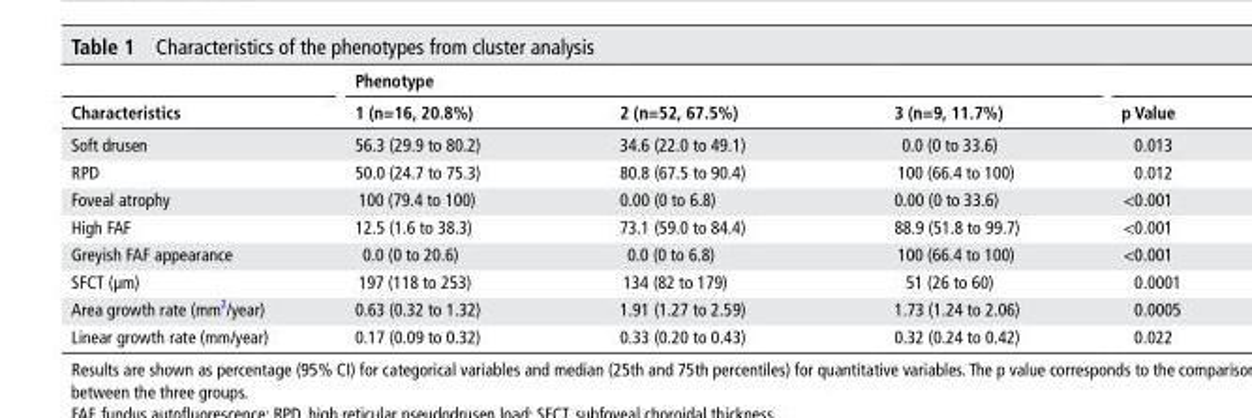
<table><thead><tr><td rowspan="2">Characteristics</td><td colspan="3">Phenotype</td><td rowspan="2">p Value</td></tr><tr><td>1 (n=16, 20.8%)</td><td>2 (n=52, 67.5%)</td><td>3 (n=9, 11.7%)</td></tr></thead><tbody><tr><td>Soft drusen</td><td>56.3 (29.9 to 80.2)</td><td>34.6 (22.0 to 49.1)</td><td>0.0 (0 to 33.6)</td><td>0.013</td></tr><tr><td>RPD</td><td>50.0 (24.7 to 75.3)</td><td>80.8 (67.5 to 90.4)</td><td>100 (66.4 to 100)</td><td>0.012</td></tr><tr><td>Foveal atrophy</td><td>100 (79.4 to 100)</td><td>0.00 (0 to 6.8)</td><td>0.00 (0 to 33.6)</td><td>&lt;0.001</td></tr><tr><td>High FAF</td><td>12.5 (1.6 to 38.3)</td><td>73.1 (59.0 to 84.4)</td><td>88.9 (51.8 to 99.7)</td><td>&lt;0.001</td></tr><tr><td>Greyish FAF appearance</td><td>0.0 (0 to 20.6)</td><td>0.0 (0 to 6.8)</td><td>100 (66.4 to 100)</td><td>&lt;0.001</td></tr><tr><td>SFCT (µm)</td><td>197 (118 to 253)</td><td>134 (82 to 179)</td><td>51 (26 to 60)</td><td>0.0001</td></tr><tr><td>Area growth rate (mm<sup>2</sup>/year)</td><td>0.63 (0.32 to 1.32)</td><td>1.91 (1.27 to 2.59)</td><td>1.73 (1.24 to 2.06)</td><td>0.0005</td></tr><tr><td>Linear growth rate (mm/year)</td><td>0.17 (0.09 to 0.32)</td><td>0.33 (0.20 to 0.43)</td><td>0.32 (0.24 to 0.42)</td><td>0.022</td></tr></tbody></table>